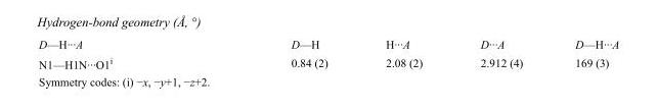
<table><tbody><tr><td>D—H···A</td><td>D—H</td><td>H···A</td><td>D···A</td><td>D—H···A</td></tr><tr><td>N1—H1N···O1<sup>i</sup></td><td>0.84 (2)</td><td>2.08 (2)</td><td>2.912 (4)</td><td>169 (3)</td></tr></tbody></table>